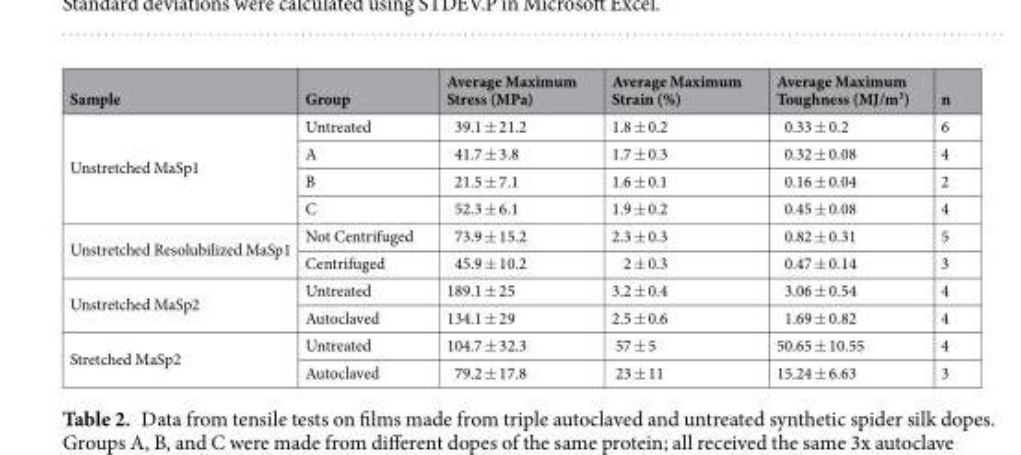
<table><thead><tr><td>Sample</td><td>Group</td><td>Average Maximum Stress (MPa)</td><td>Average Maximum Strain (%)</td><td>Average Maximum Toughness (MJ/m<sup>3</sup>)</td><td>n</td></tr></thead><tbody><tr><td rowspan="4">Unstretched MaSp1</td><td>Untreated</td><td>39.1 ± 21.2</td><td>1.8 ± 0.2</td><td>0.33 ± 0.2</td><td>6</td></tr><tr><td>A</td><td>41.7 ± 3.8</td><td>1.7 ± 0.3</td><td>0.32 ± 0.08</td><td>4</td></tr><tr><td>B</td><td>21.5 ± 7.1</td><td>1.6 ± 0.1</td><td>0.16 ± 0.04</td><td>2</td></tr><tr><td>C</td><td>52.3 ± 6.1</td><td>1.9 ± 0.2</td><td>0.45 ± 0.08</td><td>4</td></tr><tr><td rowspan="2">Unstretched Resolubilized MaSp1</td><td>Not Centrifuged</td><td>73.9 ± 15.2</td><td>2.3 ± 0.3</td><td>0.82 ± 0.31</td><td>5</td></tr><tr><td>Centrifuged</td><td>45.9 ± 10.2</td><td>2 ± 0.3</td><td>0.47 ± 0.14</td><td>3</td></tr><tr><td rowspan="2">Unstretched MaSp2</td><td>Untreated</td><td>189.1 ± 25</td><td>3.2 ± 0.4</td><td>3.06 ± 0.54</td><td>4</td></tr><tr><td>Autoclaved</td><td>134.1 ± 29</td><td>2.5 ± 0.6</td><td>1.69 ± 0.82</td><td>4</td></tr><tr><td rowspan="2">Stretched MaSp2</td><td>Untreated</td><td>104.7 ± 32.3</td><td>57 ± 5</td><td>50.65 ± 10.55</td><td>4</td></tr><tr><td>Autoclaved</td><td>79.2 ± 17.8</td><td>23 ± 11</td><td>15.24 ± 6.63</td><td>3</td></tr></tbody></table>